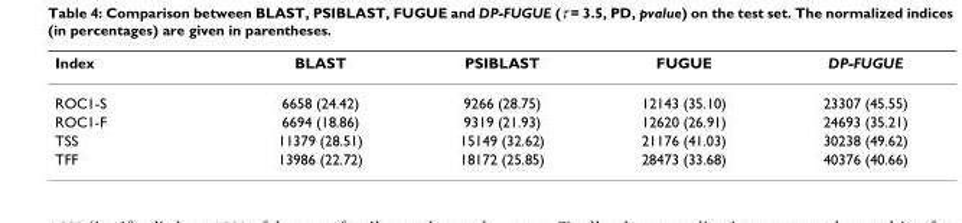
<table><thead><tr><td>Index</td><td>BLAST</td><td>PSIBLAST</td><td>FUGUE</td><td>DP-FUGUE</td></tr></thead><tbody><tr><td>ROC1-S</td><td>6658 (24.42)</td><td>9266 (28.75)</td><td>12143 (35.10)</td><td>23307 (45.55)</td></tr><tr><td>ROC1-F</td><td>6694 (18.86)</td><td>9319 (21.93)</td><td>12620 (26.91)</td><td>24693 (35.21)</td></tr><tr><td>TSS</td><td>11379 (28.51)</td><td>15149 (32.62)</td><td>21176 (41.03)</td><td>30238 (49.62)</td></tr><tr><td>TFF</td><td>13986 (22.72)</td><td>18172 (25.85)</td><td>28473 (33.68)</td><td>40376 (40.66)</td></tr></tbody></table>